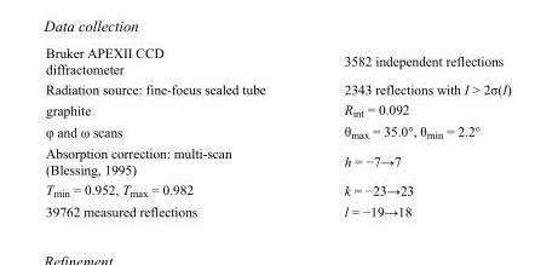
<table><tbody><tr><td>Bruker APEXII CCD diffractometer</td><td>3582 independent reflections</td></tr><tr><td>Radiation source: fine-focus sealed tube</td><td>2343 reflections with I &gt; 2σ(I)</td></tr><tr><td>graphite</td><td>R<sub>int</sub> = 0.092</td></tr><tr><td>φ and ω scans</td><td>θ<sub>max</sub> = 35.0°, θ<sub>min</sub> = 2.2°</td></tr><tr><td>Absorption correction: multi-scan (Blessing, 1995)</td><td>h = −7→7</td></tr><tr><td>T<sub>min</sub> = 0.952, T<sub>max</sub> = 0.982</td><td>k = −23→23</td></tr><tr><td>39762 measured reflections</td><td>l = −19→18</td></tr></tbody></table>